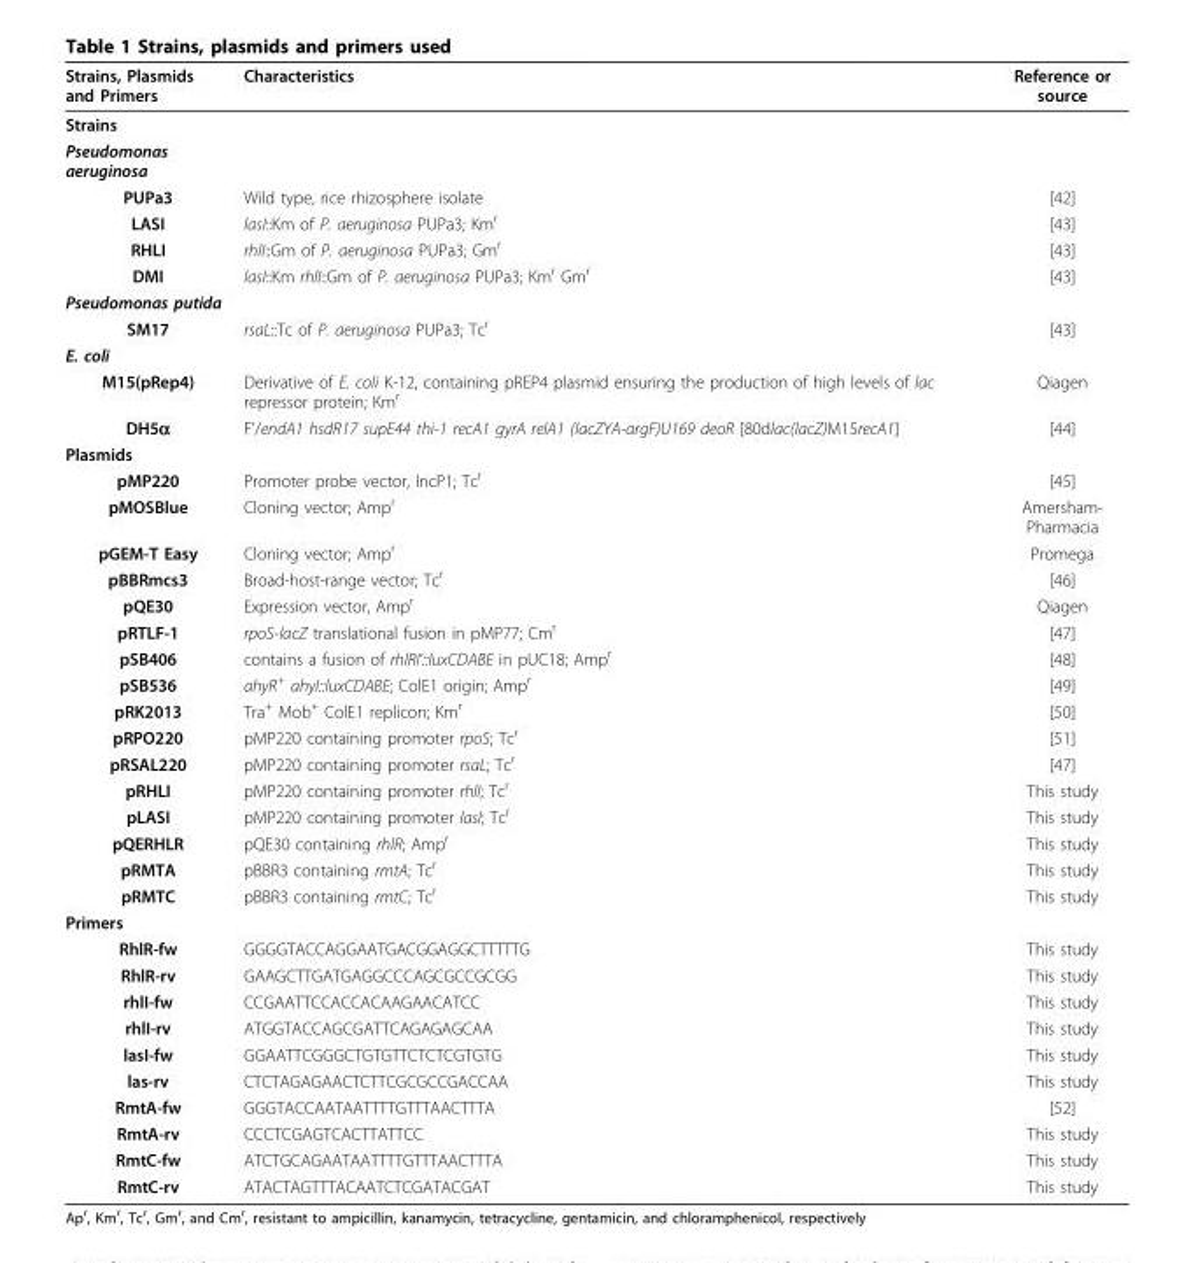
<table><thead><tr><td>Strains, Plasmids and Primers</td><td>Characteristics</td><td>Reference or source</td></tr></thead><tbody><tr><td colspan="3">Strains</td></tr><tr><td colspan="3">Pseudomonas aeruginosa</td></tr><tr><td>PUPa3</td><td>Wild type, rice rhizosphere isolate</td><td>[42]</td></tr><tr><td>LASI</td><td>lasI::Km of P. aeruginosa PUPa3; Km<sup>r</sup></td><td>[43]</td></tr><tr><td>RHLI</td><td>rhlI::Gm of P. aeruginosa PUPa3; Gm<sup>r</sup></td><td>[43]</td></tr><tr><td>DMI</td><td>lasI::Km rhlI::Gm of P. aeruginosa PUPa3; Km<sup>r</sup> Gm<sup>r</sup></td><td>[43]</td></tr><tr><td colspan="3">Pseudomonas putida</td></tr><tr><td>SM17</td><td>rsaL::Tc of P. aeruginosa PUPa3; Tc<sup>r</sup></td><td>[43]</td></tr><tr><td colspan="3">E. coli</td></tr><tr><td>M15(pRep4)</td><td>Derivative of E. coli K-12, containing pREP4 plasmid ensuring the production of high levels of lac repressor protein; Km<sup>r</sup></td><td>Qiagen</td></tr><tr><td>DH5α</td><td>F’/endA1 hsdR17 supE44 thi-1 recA1 gyrA relA1 (lacZYA-argF)U169 deoR [80dlac(lacZ)M15recA1]</td><td>[44]</td></tr><tr><td colspan="3">Plasmids</td></tr><tr><td>pMP220</td><td>Promoter probe vector, IncP1; Tc<sup>r</sup></td><td>[45]</td></tr><tr><td>pMOSBlue</td><td>Cloning vector; Amp<sup>r</sup></td><td>Amersham- Pharmacia</td></tr><tr><td>pGEM-T Easy</td><td>Cloning vector; Amp<sup>r</sup></td><td>Promega</td></tr><tr><td>pBBRmcs3</td><td>Broad-host-range vector; Tc<sup>r</sup></td><td>[46]</td></tr><tr><td>pQE30</td><td>Expression vector, Amp<sup>r</sup></td><td>Qiagen</td></tr><tr><td>pRTLF-1</td><td>rpoS-lacZ translational fusion in pMP77; Cm<sup>r</sup></td><td>[47]</td></tr><tr><td>pSB406</td><td>contains a fusion of rhlRI’::luxCDABE in pUC18; Amp<sup>r</sup></td><td>[48]</td></tr><tr><td>pSB536</td><td>ahyR<sup>+</sup> ahyI::luxCDABE; ColE1 origin; Amp<sup>r</sup></td><td>[49]</td></tr><tr><td>pRK2013</td><td>Tra<sup>+</sup> Mob<sup>+</sup> ColE1 replicon; Km<sup>r</sup></td><td>[50]</td></tr><tr><td>pRPO220</td><td>pMP220 containing promoter rpoS; Tc<sup>r</sup></td><td>[51]</td></tr><tr><td>pRSAL220</td><td>pMP220 containing promoter rsaL; Tc<sup>r</sup></td><td>[47]</td></tr><tr><td>pRHLI</td><td>pMP220 containing promoter rhlI; Tc<sup>r</sup></td><td>This study</td></tr><tr><td>pLASI</td><td>pMP220 containing promoter lasI; Tc<sup>r</sup></td><td>This study</td></tr><tr><td>pQERHLR</td><td>pQE30 containing rhlR; Amp<sup>r</sup></td><td>This study</td></tr><tr><td>pRMTA</td><td>pBBR3 containing rmtA; Tc<sup>r</sup></td><td>This study</td></tr><tr><td>pRMTC</td><td>pBBR3 containing rmtC; Tc<sup>r</sup></td><td>This study</td></tr><tr><td colspan="3">Primers</td></tr><tr><td>RhlR-fw</td><td>GGGGTACCAGGAATGACGGAGGCTTTTTG</td><td>This study</td></tr><tr><td>RhlR-rv</td><td>GAAGCTTGATGAGGCCCAGCGCCGCGG</td><td>This study</td></tr><tr><td>rhlI-fw</td><td>CCGAATTCCACCACAAGAACATCC</td><td>This study</td></tr><tr><td>rhlI-rv</td><td>ATGGTACCAGCGATTCAGAGAGCAA</td><td>This study</td></tr><tr><td>lasI-fw</td><td>GGAATTCGGGCTGTGTTCTCTCGTGTG</td><td>This study</td></tr><tr><td>las-rv</td><td>CTCTAGAGAACTCTTCGCGCCGACCAA</td><td>This study</td></tr><tr><td>RmtA-fw</td><td>GGGTACCAATAATTTTGTTTAACTTTA</td><td>[52]</td></tr><tr><td>RmtA-rv</td><td>CCCTCGAGTCACTTATTCC</td><td>This study</td></tr><tr><td>RmtC-fw</td><td>ATCTGCAGAATAATTTTGTTTAACTTTA</td><td>This study</td></tr><tr><td>RmtC-rv</td><td>ATACTAGTTTACAATCTCGATACGAT</td><td>This study</td></tr></tbody></table>